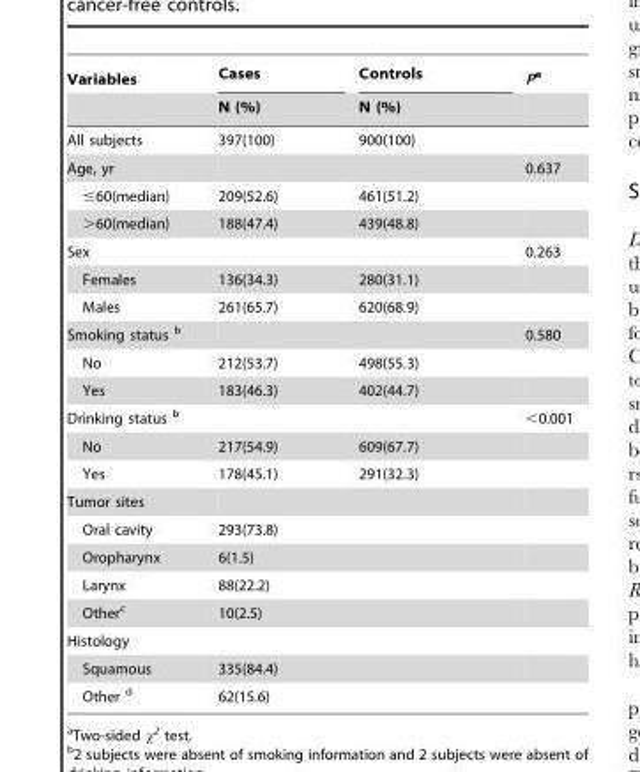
<table><thead><tr><td rowspan="2">Variables</td><td rowspan="2">Cases N (%)</td><td rowspan="2">Controls N (%)</td><td rowspan="2">Pa</td></tr><tr></tr></thead><tbody><tr><td>All subjects</td><td>397(100)</td><td>900(100)</td><td></td></tr><tr><td>Age, yr</td><td></td><td></td><td>0.637</td></tr><tr><td>≤60(median)</td><td>209(52.6)</td><td>461(51.2)</td><td></td></tr><tr><td>&gt;60(median)</td><td>188(47.4)</td><td>439(48.8)</td><td></td></tr><tr><td>Sex</td><td></td><td></td><td>0.263</td></tr><tr><td>Females</td><td>136(34.3)</td><td>280(31.1)</td><td></td></tr><tr><td>Males</td><td>261(65.7)</td><td>620(68.9)</td><td></td></tr><tr><td>Smoking status b</td><td></td><td></td><td>0.580</td></tr><tr><td>No</td><td>212(53.7)</td><td>498(55.3)</td><td></td></tr><tr><td>Yes</td><td>183(46.3)</td><td>402(44.7)</td><td></td></tr><tr><td>Drinking status b</td><td></td><td></td><td>&lt;0.001</td></tr><tr><td>No</td><td>217(54.9)</td><td>609(67.7)</td><td></td></tr><tr><td>Yes</td><td>178(45.1)</td><td>291(32.3)</td><td></td></tr><tr><td colspan="4">Tumor sites</td></tr><tr><td>Oral cavity</td><td>293(73.8)</td><td></td><td></td></tr><tr><td>Oropharynx</td><td>6(1.5)</td><td></td><td></td></tr><tr><td>Larynx</td><td>88(22.2)</td><td></td><td></td></tr><tr><td>Other<sup>c</sup></td><td>10(2.5)</td><td></td><td></td></tr><tr><td colspan="4">Histology</td></tr><tr><td>Squamous</td><td>335(84.4)</td><td></td><td></td></tr><tr><td>Other d</td><td>62(15.6)</td><td></td><td></td></tr></tbody></table>